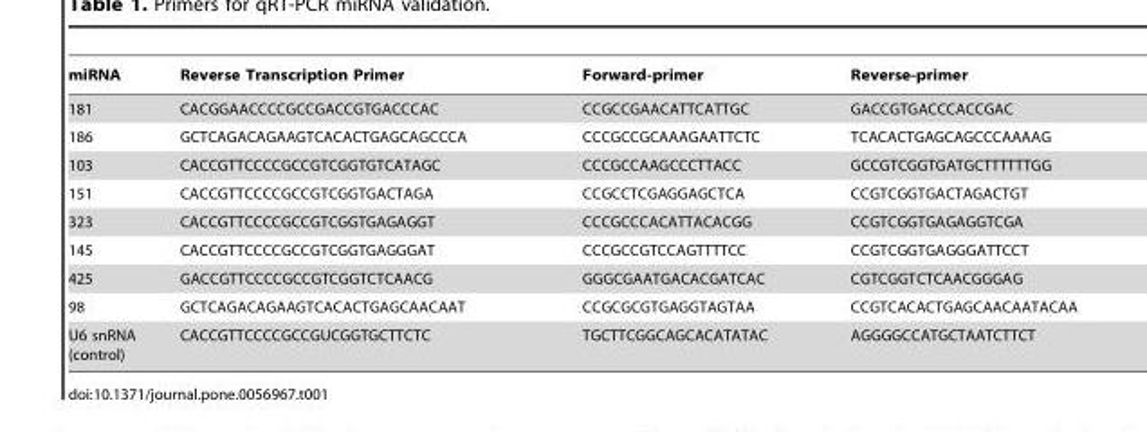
<table><thead><tr><td>miRNA</td><td>Reverse Transcription Primer</td><td>Forward-primer</td><td>Reverse-primer</td></tr></thead><tbody><tr><td>181</td><td>CACGGAACCCCGCCGACCGTGACCCAC</td><td>CCGCCGAACATTCATTGC</td><td>GACCGTGACCCACCGAC</td></tr><tr><td>186</td><td>GCTCAGACAGAAGTCACACTGAGCAGCCCA</td><td>CCCGCCGCAAAGAATTCTC</td><td>TCACACTGAGCAGCCCAAAAG</td></tr><tr><td>103</td><td>CACCGTTCCCCGCCGTCGGTGTCATAGC</td><td>CCCGCCAAGCCCTTACC</td><td>GCCGTCGGTGATGCTTTTTTGG</td></tr><tr><td>151</td><td>CACCGTTCCCCGCCGTCGGTGACTAGA</td><td>CCGCCTCGAGGAGCTCA</td><td>CCGTCGGTGACTAGACTGT</td></tr><tr><td>323</td><td>CACCGTTCCCCGCCGTCGGTGAGAGGT</td><td>CCCGCCCACATTACACGG</td><td>CCGTCGGTGAGAGGTCGA</td></tr><tr><td>145</td><td>CACCGTTCCCCGCCGTCGGTGAGGGAT</td><td>CCCGCCGTCCAGTTTTCC</td><td>CCGTCGGTGAGGGATTCCT</td></tr><tr><td>425</td><td>GACCGTTCCCCGCCGTCGGTCTCAACG</td><td>GGGCGAATGACACGATCAC</td><td>CGTCGGTCTCAACGGGAG</td></tr><tr><td>98</td><td>GCTCAGACAGAAGTCACACTGAGCAACAAT</td><td>CCGCGCGTGAGGTAGTAA</td><td>CCGTCACACTGAGCAACAATACAA</td></tr><tr><td>U6 snRNA (control)</td><td>CACCGTTCCCCGCCGUCGGTGCTTCTC</td><td>TGCTTCGGCAGCACATATAC</td><td>AGGGGCCATGCTAATCTTCT</td></tr></tbody></table>